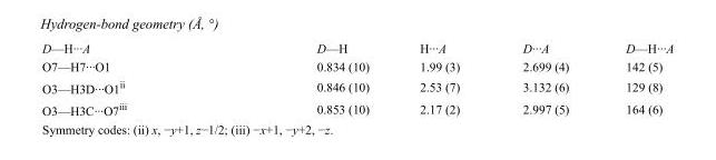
<table><tbody><tr><td>D—H···A</td><td>D—H</td><td>H···A</td><td>D···A</td><td>D—H···A</td></tr><tr><td>O7—H7···O1</td><td>0.834 (10)</td><td>1.99 (3)</td><td>2.699 (4)</td><td>142 (5)</td></tr><tr><td>O3—H3D···O1<sup>ii</sup></td><td>0.846 (10)</td><td>2.53 (7)</td><td>3.132 (6)</td><td>129 (8)</td></tr><tr><td>O3—H3C···O7<sup>iii</sup></td><td>0.853 (10)</td><td>2.17 (2)</td><td>2.997 (5)</td><td>164 (6)</td></tr></tbody></table>